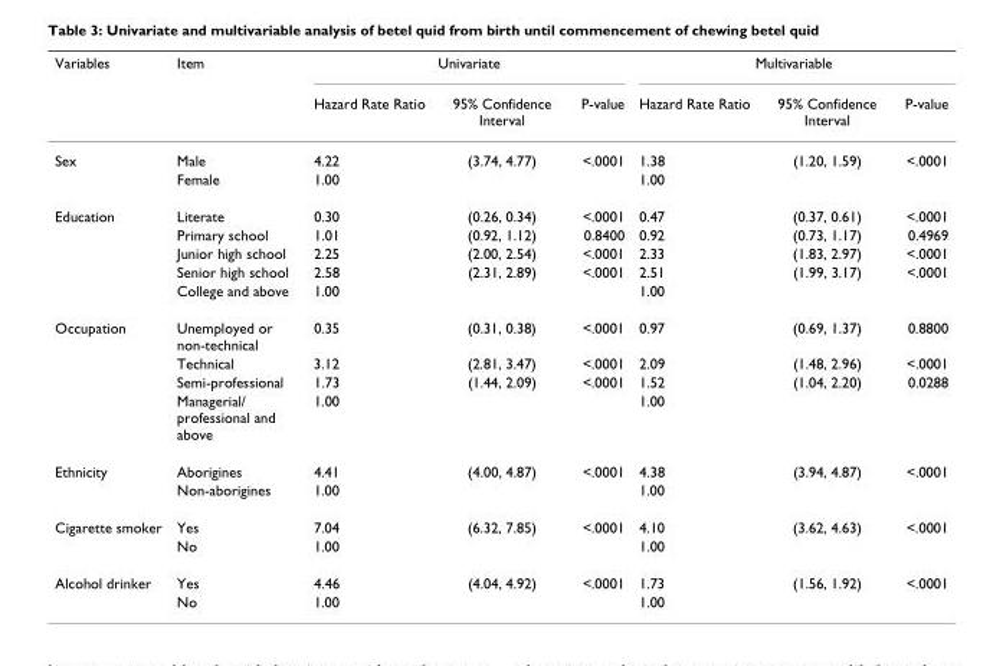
<table><thead><tr><td rowspan="2">Variables</td><td rowspan="2">Item</td><td colspan="3">Univariate</td><td colspan="3">Multivariable</td></tr><tr><td>Hazard Rate Ratio</td><td>95% Confidence Interval</td><td>P-value</td><td>Hazard Rate Ratio</td><td>95% Confidence Interval</td><td>P-value</td></tr></thead><tbody><tr><td rowspan="2">Sex</td><td>Male</td><td>4.22</td><td>(3.74, 4.77)</td><td>&lt;.0001</td><td>1.38</td><td>(1.20, 1.59)</td><td>&lt;.0001</td></tr><tr><td>Female</td><td>1.00</td><td></td><td></td><td>1.00</td><td></td><td></td></tr><tr><td rowspan="5">Education</td><td>Literate</td><td>0.30</td><td>(0.26, 0.34)</td><td>&lt;.0001</td><td>0.47</td><td>(0.37, 0.61)</td><td>&lt;.0001</td></tr><tr><td>Primary school</td><td>1.01</td><td>(0.92, 1.12)</td><td>0.8400</td><td>0.92</td><td>(0.73, 1.17)</td><td>0.4969</td></tr><tr><td>Junior high school</td><td>2.25</td><td>(2.00, 2.54)</td><td>&lt;.0001</td><td>2.33</td><td>(1.83, 2.97)</td><td>&lt;.0001</td></tr><tr><td>Senior high school</td><td>2.58</td><td>(2.31, 2.89)</td><td>&lt;.0001</td><td>2.51</td><td>(1.99, 3.17)</td><td>&lt;.0001</td></tr><tr><td>College and above</td><td>1.00</td><td></td><td></td><td>1.00</td><td></td><td></td></tr><tr><td rowspan="4">Occupation</td><td>Unemployed or non-technical</td><td>0.35</td><td>(0.31, 0.38)</td><td>&lt;.0001</td><td>0.97</td><td>(0.69, 1.37)</td><td>0.8800</td></tr><tr><td>Technical</td><td>3.12</td><td>(2.81, 3.47)</td><td>&lt;.0001</td><td>2.09</td><td>(1.48, 2.96)</td><td>&lt;.0001</td></tr><tr><td>Semi-professional</td><td>1.73</td><td>(1.44, 2.09)</td><td>&lt;.0001</td><td>1.52</td><td>(1.04, 2.20)</td><td>0.0288</td></tr><tr><td>Managerial/ professional and above</td><td>1.00</td><td></td><td></td><td>1.00</td><td></td><td></td></tr><tr><td rowspan="2">Ethnicity</td><td>Aborigines</td><td>4.41</td><td>(4.00, 4.87)</td><td>&lt;.0001</td><td>4.38</td><td>(3.94, 4.87)</td><td>&lt;.0001</td></tr><tr><td>Non-aborigines</td><td>1.00</td><td></td><td></td><td>1.00</td><td></td><td></td></tr><tr><td rowspan="2">Cigarette smoker</td><td>Yes</td><td>7.04</td><td>(6.32, 7.85)</td><td>&lt;.0001</td><td>4.10</td><td>(3.62, 4.63)</td><td>&lt;.0001</td></tr><tr><td>No</td><td>1.00</td><td></td><td></td><td>1.00</td><td></td><td></td></tr><tr><td rowspan="2">Alcohol drinker</td><td>Yes</td><td>4.46</td><td>(4.04, 4.92)</td><td>&lt;.0001</td><td>1.73</td><td>(1.56, 1.92)</td><td>&lt;.0001</td></tr><tr><td>No</td><td>1.00</td><td></td><td></td><td>1.00</td><td></td><td></td></tr></tbody></table>